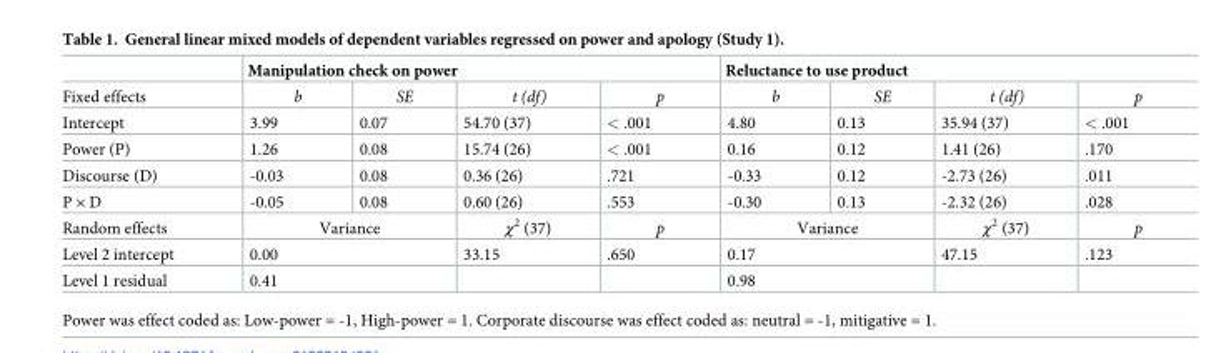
<table><thead><tr><td rowspan="2">Fixed effects</td><td colspan="4">Manipulation check on power</td><td colspan="4">Reluctance to use product</td></tr><tr><td>b</td><td>SE</td><td>t (df)</td><td>p</td><td>b</td><td>SE</td><td>t (df)</td><td>p</td></tr></thead><tbody><tr><td>Intercept</td><td>3.99</td><td>0.07</td><td>54.70 (37)</td><td>&lt; .001</td><td>4.80</td><td>0.13</td><td>35.94 (37)</td><td>&lt; .001</td></tr><tr><td>Power (P)</td><td>1.26</td><td>0.08</td><td>15.74 (26)</td><td>&lt; .001</td><td>0.16</td><td>0.12</td><td>1.41 (26)</td><td>.170</td></tr><tr><td>Discourse (D)</td><td>-0.03</td><td>0.08</td><td>0.36 (26)</td><td>.721</td><td>-0.33</td><td>0.12</td><td>-2.73 (26)</td><td>.011</td></tr><tr><td>P × D</td><td>-0.05</td><td>0.08</td><td>0.60 (26)</td><td>.553</td><td>-0.30</td><td>0.13</td><td>-2.32 (26)</td><td>.028</td></tr><tr><td>Random effects</td><td colspan="2">Variance</td><td>χ<sup>2</sup> (37)</td><td>p</td><td colspan="2">Variance</td><td>χ<sup>2</sup> (37)</td><td>p</td></tr><tr><td>Level 2 intercept</td><td colspan="2">0.00</td><td>33.15</td><td>.650</td><td colspan="2">0.17</td><td>47.15</td><td>.123</td></tr><tr><td>Level 1 residual</td><td colspan="2">0.41</td><td></td><td></td><td colspan="2">0.98</td><td></td><td></td></tr></tbody></table>